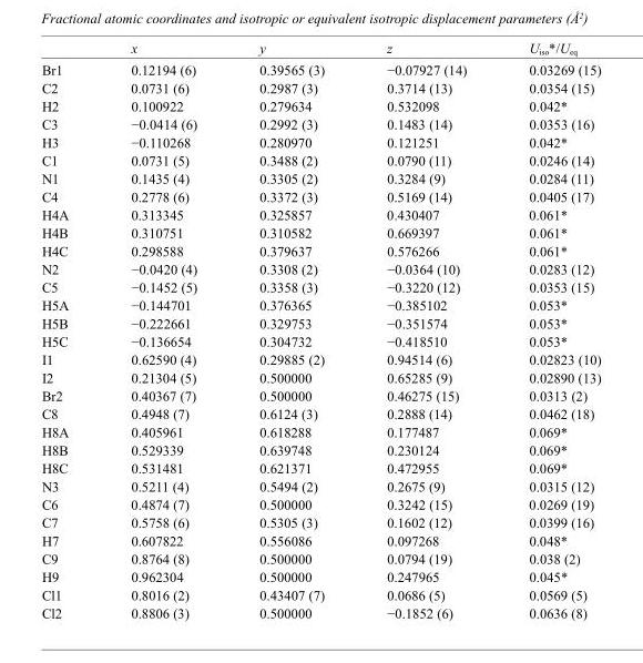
<table><thead><tr><td></td><td>x</td><td>y</td><td>z</td><td>U<sub>iso</sub>*/U<sub>eq</sub></td></tr></thead><tbody><tr><td>Br1</td><td>0.12194 (6)</td><td>0.39565 (3)</td><td>−0.07927 (14)</td><td>0.03269 (15)</td></tr><tr><td>C2</td><td>0.0731 (6)</td><td>0.2987 (3)</td><td>0.3714 (13)</td><td>0.0354 (15)</td></tr><tr><td>H2</td><td>0.100922</td><td>0.279634</td><td>0.532098</td><td>0.042*</td></tr><tr><td>C3</td><td>−0.0414 (6)</td><td>0.2992 (3)</td><td>0.1483 (14)</td><td>0.0353 (16)</td></tr><tr><td>H3</td><td>−0.110268</td><td>0.280970</td><td>0.121251</td><td>0.042*</td></tr><tr><td>C1</td><td>0.0731 (5)</td><td>0.3488 (2)</td><td>0.0790 (11)</td><td>0.0246 (14)</td></tr><tr><td>N1</td><td>0.1435 (4)</td><td>0.3305 (2)</td><td>0.3284 (9)</td><td>0.0284 (11)</td></tr><tr><td>C4</td><td>0.2778 (6)</td><td>0.3372 (3)</td><td>0.5169 (14)</td><td>0.0405 (17)</td></tr><tr><td>H4A</td><td>0.313345</td><td>0.325857</td><td>0.430407</td><td>0.061*</td></tr><tr><td>H4B</td><td>0.310751</td><td>0.310582</td><td>0.669397</td><td>0.061*</td></tr><tr><td>H4C</td><td>0.298588</td><td>0.379637</td><td>0.576266</td><td>0.061*</td></tr><tr><td>N2</td><td>−0.0420 (4)</td><td>0.3308 (2)</td><td>−0.0364 (10)</td><td>0.0283 (12)</td></tr><tr><td>C5</td><td>−0.1452 (5)</td><td>0.3358 (3)</td><td>−0.3220 (12)</td><td>0.0353 (15)</td></tr><tr><td>H5A</td><td>−0.144701</td><td>0.376365</td><td>−0.385102</td><td>0.053*</td></tr><tr><td>H5B</td><td>−0.222661</td><td>0.329753</td><td>−0.351574</td><td>0.053*</td></tr><tr><td>H5C</td><td>−0.136654</td><td>0.304732</td><td>−0.418510</td><td>0.053*</td></tr><tr><td>I1</td><td>0.62590 (4)</td><td>0.29885 (2)</td><td>0.94514 (6)</td><td>0.02823 (10)</td></tr><tr><td>I2</td><td>0.21304 (5)</td><td>0.500000</td><td>0.65285 (9)</td><td>0.02890 (13)</td></tr><tr><td>Br2</td><td>0.40367 (7)</td><td>0.500000</td><td>0.46275 (15)</td><td>0.0313 (2)</td></tr><tr><td>C8</td><td>0.4948 (7)</td><td>0.6124 (3)</td><td>0.2888 (14)</td><td>0.0462 (18)</td></tr><tr><td>H8A</td><td>0.405961</td><td>0.618288</td><td>0.177487</td><td>0.069*</td></tr><tr><td>H8B</td><td>0.529339</td><td>0.639748</td><td>0.230124</td><td>0.069*</td></tr><tr><td>H8C</td><td>0.531481</td><td>0.621371</td><td>0.472955</td><td>0.069*</td></tr><tr><td>N3</td><td>0.5211 (4)</td><td>0.5494 (2)</td><td>0.2675 (9)</td><td>0.0315 (12)</td></tr><tr><td>C6</td><td>0.4874 (7)</td><td>0.500000</td><td>0.3242 (15)</td><td>0.0269 (19)</td></tr><tr><td>C7</td><td>0.5758 (6)</td><td>0.5305 (3)</td><td>0.1602 (12)</td><td>0.0399 (16)</td></tr><tr><td>H7</td><td>0.607822</td><td>0.556086</td><td>0.097268</td><td>0.048*</td></tr><tr><td>C9</td><td>0.8764 (8)</td><td>0.500000</td><td>0.0794 (19)</td><td>0.038 (2)</td></tr><tr><td>H9</td><td>0.962304</td><td>0.500000</td><td>0.247965</td><td>0.045*</td></tr><tr><td>Cl1</td><td>0.8016 (2)</td><td>0.43407 (7)</td><td>0.0686 (5)</td><td>0.0569 (5)</td></tr><tr><td>Cl2</td><td>0.8806 (3)</td><td>0.500000</td><td>−0.1852 (6)</td><td>0.0636 (8)</td></tr></tbody></table>